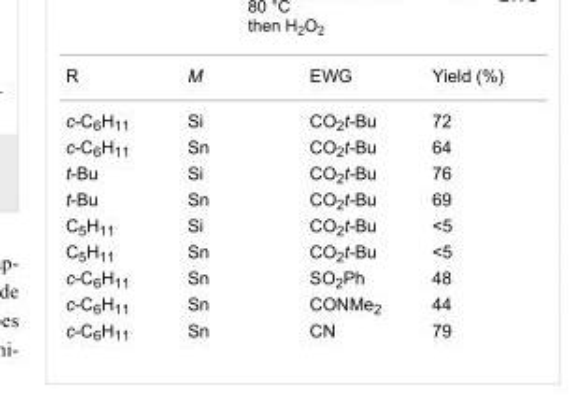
<table><tbody><tr><td>R</td><td>M</td><td>EWG</td><td>Yield (%)</td></tr><tr><td>c-C<sub>6</sub>H<sub>11</sub></td><td>Si</td><td>CO<sub>2</sub>t-Bu</td><td>72</td></tr><tr><td>c-C<sub>6</sub>H<sub>11</sub></td><td>Sn</td><td>CO<sub>2</sub>t-Bu</td><td>64</td></tr><tr><td>t-Bu</td><td>Si</td><td>CO<sub>2</sub>t-Bu</td><td>76</td></tr><tr><td>t-Bu</td><td>Sn</td><td>CO<sub>2</sub>t-Bu</td><td>69</td></tr><tr><td>C<sub>5</sub>H<sub>11</sub></td><td>Si</td><td>CO<sub>2</sub>t-Bu</td><td>&lt;5</td></tr><tr><td>C<sub>5</sub>H<sub>11</sub></td><td>Sn</td><td>CO<sub>2</sub>t-Bu</td><td>&lt;5</td></tr><tr><td>c-C<sub>6</sub>H<sub>11</sub></td><td>Sn</td><td>SO<sub>2</sub>Ph</td><td>48</td></tr><tr><td>c-C<sub>6</sub>H<sub>11</sub></td><td>Sn</td><td>CONMe<sub>2</sub></td><td>44</td></tr><tr><td>c-C<sub>6</sub>H<sub>11</sub></td><td>Sn</td><td>CN</td><td>79</td></tr></tbody></table>